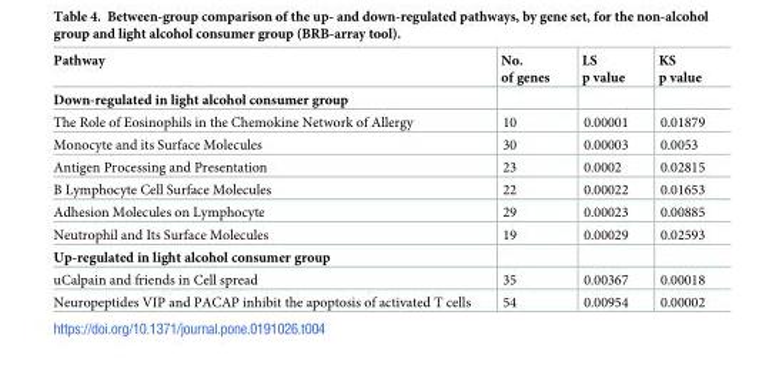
<table><thead><tr><td>Pathway</td><td>No. of genes</td><td>LS p value</td><td>KS p value</td></tr></thead><tbody><tr><td colspan="4">Down-regulated in light alcohol consumer group</td></tr><tr><td>The Role of Eosinophils in the Chemokine Network of Allergy</td><td>10</td><td>0.00001</td><td>0.01879</td></tr><tr><td>Monocyte and its Surface Molecules</td><td>30</td><td>0.00003</td><td>0.0053</td></tr><tr><td>Antigen Processing and Presentation</td><td>23</td><td>0.0002</td><td>0.02815</td></tr><tr><td>B Lymphocyte Cell Surface Molecules</td><td>22</td><td>0.00022</td><td>0.01653</td></tr><tr><td>Adhesion Molecules on Lymphocyte</td><td>29</td><td>0.00023</td><td>0.00885</td></tr><tr><td>Neutrophil and Its Surface Molecules</td><td>19</td><td>0.00029</td><td>0.02593</td></tr><tr><td colspan="4">Up-regulated in light alcohol consumer group</td></tr><tr><td>uCalpain and friends in Cell spread</td><td>35</td><td>0.00367</td><td>0.00018</td></tr><tr><td>Neuropeptides VIP and PACAP inhibit the apoptosis of activated T cells</td><td>54</td><td>0.00954</td><td>0.00002</td></tr></tbody></table>